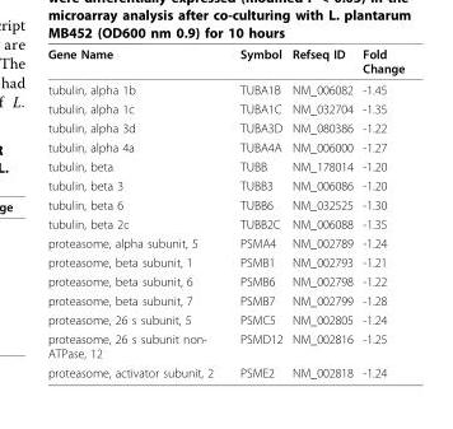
<table><thead><tr><td>Gene Name</td><td>Symbol</td><td>Refseq ID</td><td>Fold Change</td></tr></thead><tbody><tr><td>tubulin, alpha 1b</td><td>TUBA1B</td><td>NM_006082</td><td>-1.45</td></tr><tr><td>tubulin, alpha 1c</td><td>TUBA1C</td><td>NM_032704</td><td>-1.35</td></tr><tr><td>tubulin, alpha 3d</td><td>TUBA3D</td><td>NM_080386</td><td>-1.22</td></tr><tr><td>tubulin, alpha 4a</td><td>TUBA4A</td><td>NM_006000</td><td>-1.27</td></tr><tr><td>tubulin, beta</td><td>TUBB</td><td>NM_178014</td><td>-1.20</td></tr><tr><td>tubulin, beta 3</td><td>TUBB3</td><td>NM_006086</td><td>-1.20</td></tr><tr><td>tubulin, beta 6</td><td>TUBB6</td><td>NM_032525</td><td>-1.30</td></tr><tr><td>tubulin, beta 2c</td><td>TUBB2C</td><td>NM_006088</td><td>-1.35</td></tr><tr><td>proteasome, alpha subunit, 5</td><td>PSMA4</td><td>NM_002789</td><td>-1.24</td></tr><tr><td>proteasome, beta subunit, 1</td><td>PSMB1</td><td>NM_002793</td><td>-1.21</td></tr><tr><td>proteasome, beta subunit, 6</td><td>PSMB6</td><td>NM_002798</td><td>-1.22</td></tr><tr><td>proteasome, beta subunit, 7</td><td>PSMB7</td><td>NM_002799</td><td>-1.28</td></tr><tr><td>proteasome, 26 s subunit, 5</td><td>PSMC5</td><td>NM_002805</td><td>-1.24</td></tr><tr><td>proteasome, 26 s subunit non- ATPase, 12</td><td>PSMD12</td><td>NM_002816</td><td>-1.25</td></tr><tr><td>proteasome, activator subunit, 2</td><td>PSME2</td><td>NM_002818</td><td>-1.24</td></tr></tbody></table>